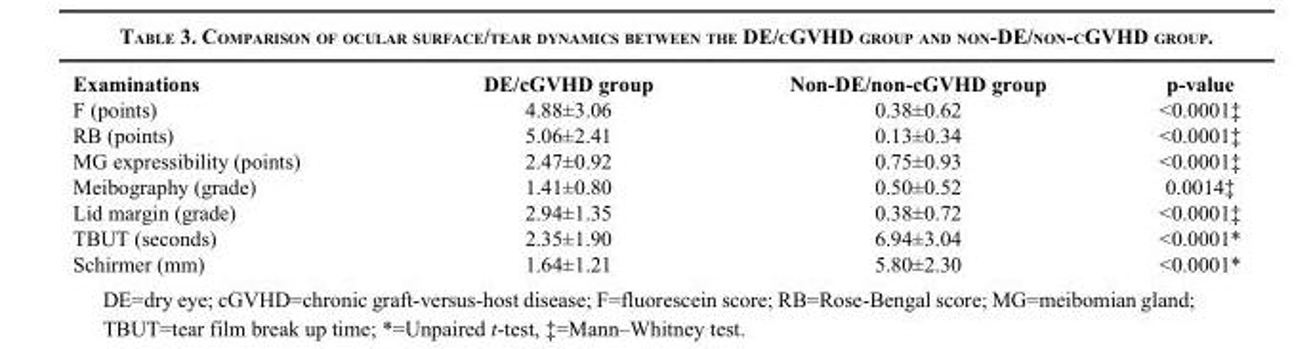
<table><thead><tr><td>Examinations</td><td>DE/cGVHD group</td><td>Non-DE/non-cGVHD group</td><td>p-value</td></tr></thead><tbody><tr><td>F (points)</td><td>4.88±3.06</td><td>0.38±0.62</td><td>&lt;0.0001‡</td></tr><tr><td>RB (points)</td><td>5.06±2.41</td><td>0.13±0.34</td><td>&lt;0.0001‡</td></tr><tr><td>MG expressibility (points)</td><td>2.47±0.92</td><td>0.75±0.93</td><td>&lt;0.0001‡</td></tr><tr><td>Meibography (grade)</td><td>1.41±0.80</td><td>0.50±0.52</td><td>0.0014‡</td></tr><tr><td>Lid margin (grade)</td><td>2.94±1.35</td><td>0.38±0.72</td><td>&lt;0.0001‡</td></tr><tr><td>TBUT (seconds)</td><td>2.35±1.90</td><td>6.94±3.04</td><td>&lt;0.0001*</td></tr><tr><td>Schirmer (mm)</td><td>1.64±1.21</td><td>5.80±2.30</td><td>&lt;0.0001*</td></tr></tbody></table>